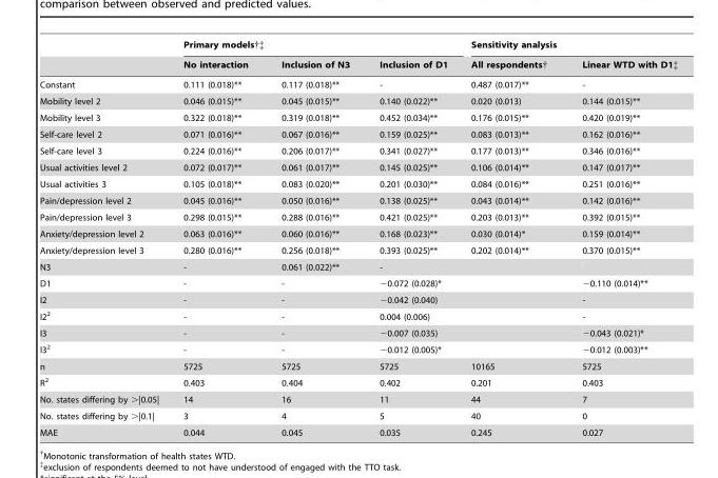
<table><thead><tr><td rowspan="2"></td><td colspan="3">Primary models†‡</td><td colspan="2">Sensitivity analysis</td></tr><tr><td>No interaction</td><td>Inclusion of N3</td><td>Inclusion of D1</td><td>All respondents†</td><td>Linear WTD with D1‡</td></tr></thead><tbody><tr><td>Constant</td><td>0.111 (0.018)**</td><td>0.117 (0.018)**</td><td>-</td><td>0.487 (0.017)**</td><td>-</td></tr><tr><td>Mobility level 2</td><td>0.046 (0.015)**</td><td>0.045 (0.015)**</td><td>0.140 (0.022)**</td><td>0.020 (0.013)</td><td>0.144 (0.015)**</td></tr><tr><td>Mobility level 3</td><td>0.322 (0.018)**</td><td>0.319 (0.018)**</td><td>0.452 (0.034)**</td><td>0.176 (0.015)**</td><td>0.420 (0.019)**</td></tr><tr><td>Self-care level 2</td><td>0.071 (0.016)**</td><td>0.067 (0.016)**</td><td>0.159 (0.025)**</td><td>0.083 (0.013)**</td><td>0.162 (0.016)**</td></tr><tr><td>Self-care level 3</td><td>0.224 (0.016)**</td><td>0.206 (0.017)**</td><td>0.341 (0.027)**</td><td>0.177 (0.013)**</td><td>0.346 (0.016)**</td></tr><tr><td>Usual activities level 2</td><td>0.072 (0.017)**</td><td>0.061 (0.017)**</td><td>0.145 (0.025)**</td><td>0.106 (0.014)**</td><td>0.147 (0.017)**</td></tr><tr><td>Usual activities 3</td><td>0.105 (0.018)**</td><td>0.083 (0.020)**</td><td>0.201 (0.030)**</td><td>0.084 (0.016)**</td><td>0.251 (0.016)**</td></tr><tr><td>Pain/depression level 2</td><td>0.045 (0.016)**</td><td>0.050 (0.016)**</td><td>0.138 (0.025)**</td><td>0.043 (0.014)**</td><td>0.142 (0.016)**</td></tr><tr><td>Pain/depression level 3</td><td>0.298 (0.015)**</td><td>0.288 (0.016)**</td><td>0.421 (0.025)**</td><td>0.203 (0.013)**</td><td>0.392 (0.015)**</td></tr><tr><td>Anxiety/depression level 2</td><td>0.063 (0.016)**</td><td>0.060 (0.016)**</td><td>0.168 (0.023)**</td><td>0.030 (0.014)*</td><td>0.159 (0.014)**</td></tr><tr><td>Anxiety/depression level 3</td><td>0.280 (0.016)**</td><td>0.256 (0.018)**</td><td>0.393 (0.025)**</td><td>0.202 (0.014)**</td><td>0.370 (0.015)**</td></tr><tr><td>N3</td><td>-</td><td>0.061 (0.022)**</td><td>-</td><td></td><td></td></tr><tr><td>D1</td><td>-</td><td>-</td><td>−0.072 (0.028)*</td><td></td><td>−0.110 (0.014)**</td></tr><tr><td>I2</td><td>-</td><td>-</td><td>−0.042 (0.040)</td><td></td><td>-</td></tr><tr><td>I2<sup>2</sup></td><td>-</td><td>-</td><td>0.004 (0.006)</td><td></td><td>-</td></tr><tr><td>I3</td><td>-</td><td>-</td><td>−0.007 (0.035)</td><td></td><td>−0.043 (0.021)*</td></tr><tr><td>I3<sup>2</sup></td><td>-</td><td>-</td><td>−0.012 (0.005)*</td><td></td><td>−0.012 (0.003)**</td></tr><tr><td>n</td><td>5725</td><td>5725</td><td>5725</td><td>10165</td><td>5725</td></tr><tr><td>R<sup>2</sup></td><td>0.403</td><td>0.404</td><td>0.402</td><td>0.201</td><td>0.403</td></tr><tr><td>No. states differing by &gt;|0.05|</td><td>14</td><td>16</td><td>11</td><td>44</td><td>7</td></tr><tr><td>No. states differing by &gt;|0.1|</td><td>3</td><td>4</td><td>5</td><td>40</td><td>0</td></tr><tr><td>MAE</td><td>0.044</td><td>0.045</td><td>0.035</td><td>0.245</td><td>0.027</td></tr></tbody></table>